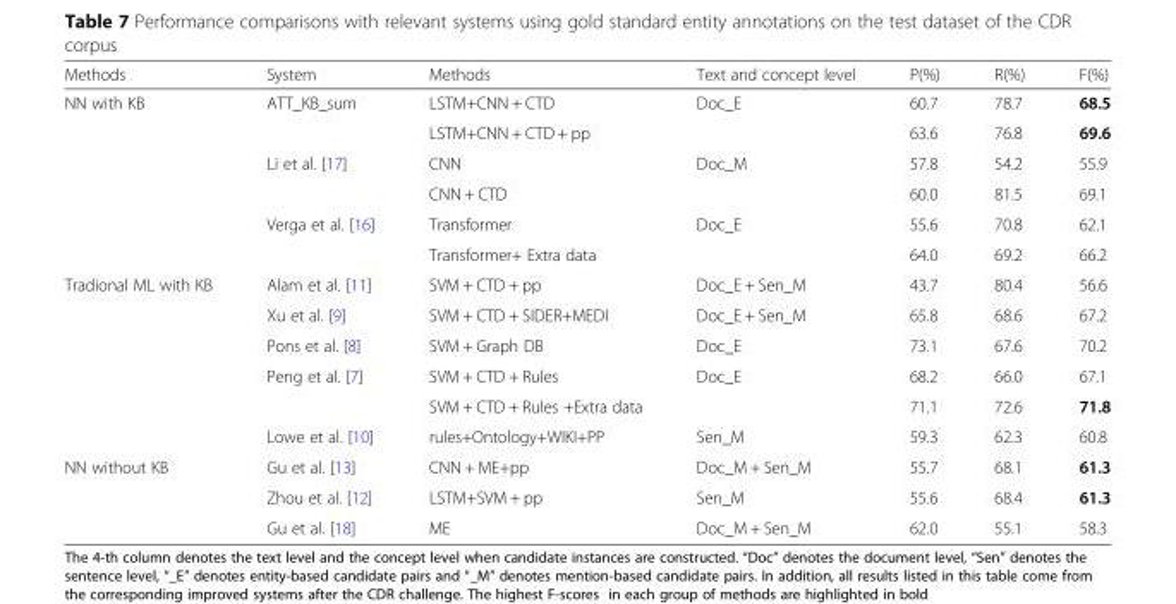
<table><thead><tr><td>Methods</td><td>System</td><td>Methods</td><td>Text and concept level</td><td>P(%)</td><td>R(%)</td><td>F(%)</td></tr></thead><tbody><tr><td rowspan="6">NN with KB</td><td rowspan="2">ATT_KB_sum</td><td>LSTM+CNN + CTD</td><td>Doc_E</td><td>60.7</td><td>78.7</td><td>68.5</td></tr><tr><td>LSTM+CNN + CTD + pp</td><td></td><td>63.6</td><td>76.8</td><td>69.6</td></tr><tr><td rowspan="2">Li et al. [17]</td><td>CNN</td><td>Doc_M</td><td>57.8</td><td>54.2</td><td>55.9</td></tr><tr><td>CNN + CTD</td><td></td><td>60.0</td><td>81.5</td><td>69.1</td></tr><tr><td rowspan="2">Verga et al. [16]</td><td>Transformer</td><td>Doc_E</td><td>55.6</td><td>70.8</td><td>62.1</td></tr><tr><td>Transformer+ Extra data</td><td></td><td>64.0</td><td>69.2</td><td>66.2</td></tr><tr><td rowspan="6">Tradional ML with KB</td><td>Alam et al. [11]</td><td>SVM + CTD + pp</td><td>Doc_E + Sen_M</td><td>43.7</td><td>80.4</td><td>56.6</td></tr><tr><td>Xu et al. [9]</td><td>SVM + CTD + SIDER+MEDI</td><td>Doc_E + Sen_M</td><td>65.8</td><td>68.6</td><td>67.2</td></tr><tr><td>Pons et al. [8]</td><td>SVM + Graph DB</td><td>Doc_E</td><td>73.1</td><td>67.6</td><td>70.2</td></tr><tr><td rowspan="2">Peng et al. [7]</td><td>SVM + CTD + Rules</td><td>Doc_E</td><td>68.2</td><td>66.0</td><td>67.1</td></tr><tr><td>SVM + CTD + Rules +Extra data</td><td></td><td>71.1</td><td>72.6</td><td>71.8</td></tr><tr><td>Lowe et al. [10]</td><td>rules+Ontology+WIKI+PP</td><td>Sen_M</td><td>59.3</td><td>62.3</td><td>60.8</td></tr><tr><td rowspan="3">NN without KB</td><td>Gu et al. [13]</td><td>CNN + ME+pp</td><td>Doc_M + Sen_M</td><td>55.7</td><td>68.1</td><td>61.3</td></tr><tr><td>Zhou et al. [12]</td><td>LSTM+SVM + pp</td><td>Sen_M</td><td>55.6</td><td>68.4</td><td>61.3</td></tr><tr><td>Gu et al. [18]</td><td>ME</td><td>Doc_M + Sen_M</td><td>62.0</td><td>55.1</td><td>58.3</td></tr></tbody></table>